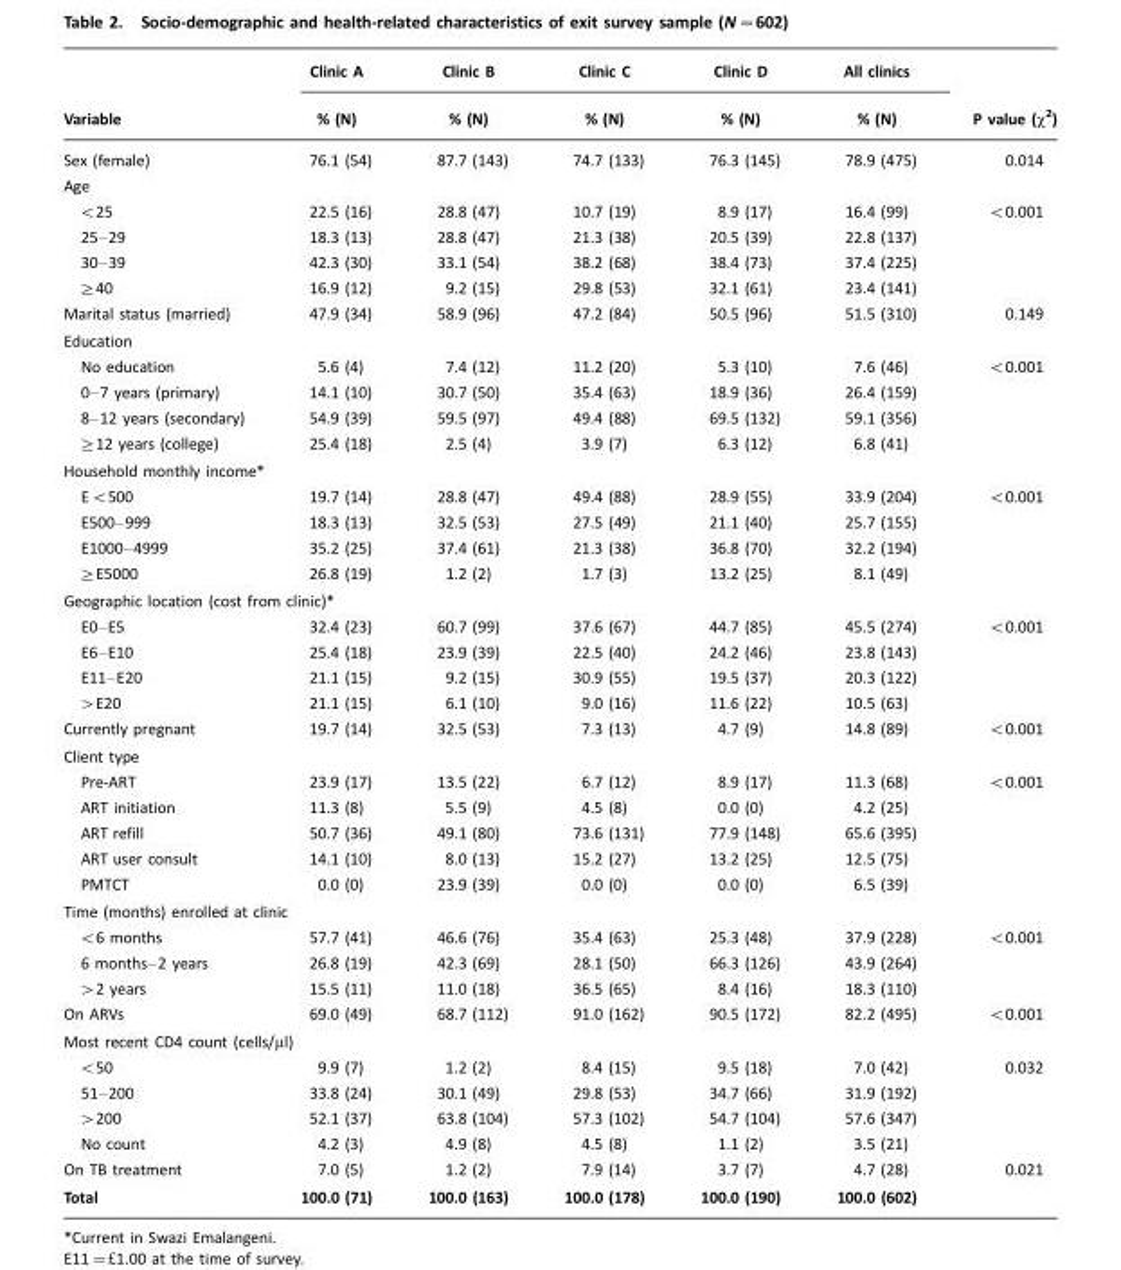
<table><thead><tr><td rowspan="2">Variable</td><td rowspan="2">Clinic A % (N)</td><td rowspan="2">Clinic B % (N)</td><td rowspan="2">Clinic C % (N)</td><td rowspan="2">Clinic D % (N)</td><td rowspan="2">All clinics % (N)</td><td rowspan="2">P value (χ<sup>2</sup>)</td></tr><tr></tr></thead><tbody><tr><td>Sex (female)</td><td>76.1 (54)</td><td>87.7 (143)</td><td>74.7 (133)</td><td>76.3 (145)</td><td>78.9 (475)</td><td>0.014</td></tr><tr><td colspan="7">Age</td></tr><tr><td>&lt;25</td><td>22.5 (16)</td><td>28.8 (47)</td><td>10.7 (19)</td><td>8.9 (17)</td><td>16.4 (99)</td><td>&lt;0.001</td></tr><tr><td>25–29</td><td>18.3 (13)</td><td>28.8 (47)</td><td>21.3 (38)</td><td>20.5 (39)</td><td>22.8 (137)</td><td></td></tr><tr><td>30–39</td><td>42.3 (30)</td><td>33.1 (54)</td><td>38.2 (68)</td><td>38.4 (73)</td><td>37.4 (225)</td><td></td></tr><tr><td>≥40</td><td>16.9 (12)</td><td>9.2 (15)</td><td>29.8 (53)</td><td>32.1 (61)</td><td>23.4 (141)</td><td></td></tr><tr><td>Marital status (married)</td><td>47.9 (34)</td><td>58.9 (96)</td><td>47.2 (84)</td><td>50.5 (96)</td><td>51.5 (310)</td><td>0.149</td></tr><tr><td colspan="7">Education</td></tr><tr><td>No education</td><td>5.6 (4)</td><td>7.4 (12)</td><td>11.2 (20)</td><td>5.3 (10)</td><td>7.6 (46)</td><td>&lt;0.001</td></tr><tr><td>0–7 years (primary)</td><td>14.1 (10)</td><td>30.7 (50)</td><td>35.4 (63)</td><td>18.9 (36)</td><td>26.4 (159)</td><td></td></tr><tr><td>8–12 years (secondary)</td><td>54.9 (39)</td><td>59.5 (97)</td><td>49.4 (88)</td><td>69.5 (132)</td><td>59.1 (356)</td><td></td></tr><tr><td>≥12 years (college)</td><td>25.4 (18)</td><td>2.5 (4)</td><td>3.9 (7)</td><td>6.3 (12)</td><td>6.8 (41)</td><td></td></tr><tr><td colspan="7">Household monthly income*</td></tr><tr><td>E&lt;500</td><td>19.7 (14)</td><td>28.8 (47)</td><td>49.4 (88)</td><td>28.9 (55)</td><td>33.9 (204)</td><td>&lt;0.001</td></tr><tr><td>E500–999</td><td>18.3 (13)</td><td>32.5 (53)</td><td>27.5 (49)</td><td>21.1 (40)</td><td>25.7 (155)</td><td></td></tr><tr><td>E1000–4999</td><td>35.2 (25)</td><td>37.4 (61)</td><td>21.3 (38)</td><td>36.8 (70)</td><td>32.2 (194)</td><td></td></tr><tr><td>≥E5000</td><td>26.8 (19)</td><td>1.2 (2)</td><td>1.7 (3)</td><td>13.2 (25)</td><td>8.1 (49)</td><td></td></tr><tr><td colspan="7">Geographic location (cost from clinic)*</td></tr><tr><td>E0–E5</td><td>32.4 (23)</td><td>60.7 (99)</td><td>37.6 (67)</td><td>44.7 (85)</td><td>45.5 (274)</td><td>&lt;0.001</td></tr><tr><td>E6–E10</td><td>25.4 (18)</td><td>23.9 (39)</td><td>22.5 (40)</td><td>24.2 (46)</td><td>23.8 (143)</td><td></td></tr><tr><td>E11–E20</td><td>21.1 (15)</td><td>9.2 (15)</td><td>30.9 (55)</td><td>19.5 (37)</td><td>20.3 (122)</td><td></td></tr><tr><td>&gt;E20</td><td>21.1 (15)</td><td>6.1 (10)</td><td>9.0 (16)</td><td>11.6 (22)</td><td>10.5 (63)</td><td></td></tr><tr><td>Currently pregnant</td><td>19.7 (14)</td><td>32.5 (53)</td><td>7.3 (13)</td><td>4.7 (9)</td><td>14.8 (89)</td><td>&lt;0.001</td></tr><tr><td colspan="7">Client type</td></tr><tr><td>Pre-ART</td><td>23.9 (17)</td><td>13.5 (22)</td><td>6.7 (12)</td><td>8.9 (17)</td><td>11.3 (68)</td><td>&lt;0.001</td></tr><tr><td>ART initiation</td><td>11.3 (8)</td><td>5.5 (9)</td><td>4.5 (8)</td><td>0.0 (0)</td><td>4.2 (25)</td><td></td></tr><tr><td>ART refill</td><td>50.7 (36)</td><td>49.1 (80)</td><td>73.6 (131)</td><td>77.9 (148)</td><td>65.6 (395)</td><td></td></tr><tr><td>ART user consult</td><td>14.1 (10)</td><td>8.0 (13)</td><td>15.2 (27)</td><td>13.2 (25)</td><td>12.5 (75)</td><td></td></tr><tr><td>PMTCT</td><td>0.0 (0)</td><td>23.9 (39)</td><td>0.0 (0)</td><td>0.0 (0)</td><td>6.5 (39)</td><td></td></tr><tr><td colspan="7">Time (months) enrolled at clinic</td></tr><tr><td>&lt;6 months</td><td>57.7 (41)</td><td>46.6 (76)</td><td>35.4 (63)</td><td>25.3 (48)</td><td>37.9 (228)</td><td>&lt;0.001</td></tr><tr><td>6 months–2 years</td><td>26.8 (19)</td><td>42.3 (69)</td><td>28.1 (50)</td><td>66.3 (126)</td><td>43.9 (264)</td><td></td></tr><tr><td>&gt;2 years</td><td>15.5 (11)</td><td>11.0 (18)</td><td>36.5 (65)</td><td>8.4 (16)</td><td>18.3 (110)</td><td></td></tr><tr><td>On ARVs</td><td>69.0 (49)</td><td>68.7 (112)</td><td>91.0 (162)</td><td>90.5 (172)</td><td>82.2 (495)</td><td>&lt;0.001</td></tr><tr><td colspan="7">Most recent CD4 count (cells/µl)</td></tr><tr><td>&lt;50</td><td>9.9 (7)</td><td>1.2 (2)</td><td>8.4 (15)</td><td>9.5 (18)</td><td>7.0 (42)</td><td>0.032</td></tr><tr><td>51–200</td><td>33.8 (24)</td><td>30.1 (49)</td><td>29.8 (53)</td><td>34.7 (66)</td><td>31.9 (192)</td><td></td></tr><tr><td>&gt;200</td><td>52.1 (37)</td><td>63.8 (104)</td><td>57.3 (102)</td><td>54.7 (104)</td><td>57.6 (347)</td><td></td></tr><tr><td>No count</td><td>4.2 (3)</td><td>4.9 (8)</td><td>4.5 (8)</td><td>1.1 (2)</td><td>3.5 (21)</td><td></td></tr><tr><td>On TB treatment</td><td>7.0 (5)</td><td>1.2 (2)</td><td>7.9 (14)</td><td>3.7 (7)</td><td>4.7 (28)</td><td>0.021</td></tr><tr><td>Total</td><td>100.0 (71)</td><td>100.0 (163)</td><td>100.0 (178)</td><td>100.0 (190)</td><td>100.0 (602)</td><td></td></tr></tbody></table>